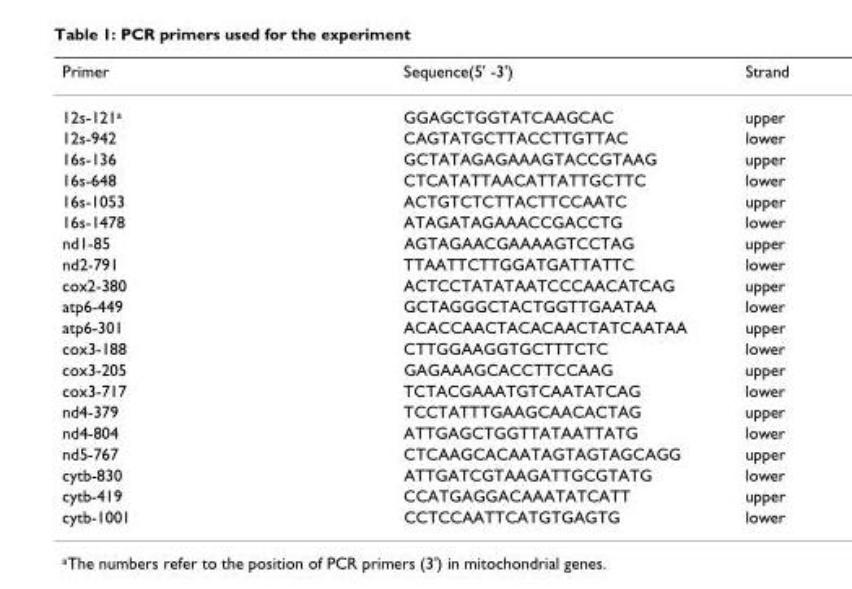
<table><thead><tr><td>Primer</td><td>Sequence(5&#x27; -3&#x27;)</td><td>Strand</td></tr></thead><tbody><tr><td>12s-121<sup>a</sup></td><td>GGAGCTGGTATCAAGCAC</td><td>upper</td></tr><tr><td>12s-942</td><td>CAGTATGCTTACCTTGTTAC</td><td>lower</td></tr><tr><td>16s-136</td><td>GCTATAGAGAAAGTACCGTAAG</td><td>upper</td></tr><tr><td>16s-648</td><td>CTCATATTAACATTATTGCTTC</td><td>lower</td></tr><tr><td>16s-1053</td><td>ACTGTCTCTTACTTCCAATC</td><td>upper</td></tr><tr><td>16s-1478</td><td>ATAGATAGAAACCGACCTG</td><td>lower</td></tr><tr><td>nd1-85</td><td>AGTAGAACGAAAAGTCCTAG</td><td>upper</td></tr><tr><td>nd2-791</td><td>TTAATTCTTGGATGATTATTC</td><td>lower</td></tr><tr><td>cox2-380</td><td>ACTCCTATATAATCCCAACATCAG</td><td>upper</td></tr><tr><td>atp6-449</td><td>GCTAGGGCTACTGGTTGAATAA</td><td>lower</td></tr><tr><td>atp6-301</td><td>ACACCAACTACACAACTATCAATAA</td><td>upper</td></tr><tr><td>cox3-188</td><td>CTTGGAAGGTGCTTTCTC</td><td>lower</td></tr><tr><td>cox3-205</td><td>GAGAAAGCACCTTCCAAG</td><td>upper</td></tr><tr><td>cox3-717</td><td>TCTACGAAATGTCAATATCAG</td><td>lower</td></tr><tr><td>nd4-379</td><td>TCCTATTTGAAGCAACACTAG</td><td>upper</td></tr><tr><td>nd4-804</td><td>ATTGAGCTGGTTATAATTATG</td><td>lower</td></tr><tr><td>nd5-767</td><td>CTCAAGCACAATAGTAGTAGCAGG</td><td>upper</td></tr><tr><td>cytb-830</td><td>ATTGATCGTAAGATTGCGTATG</td><td>lower</td></tr><tr><td>cytb-419</td><td>CCATGAGGACAAATATCATT</td><td>upper</td></tr><tr><td>cytb-1001</td><td>CCTCCAATTCATGTGAGTG</td><td>lower</td></tr></tbody></table>